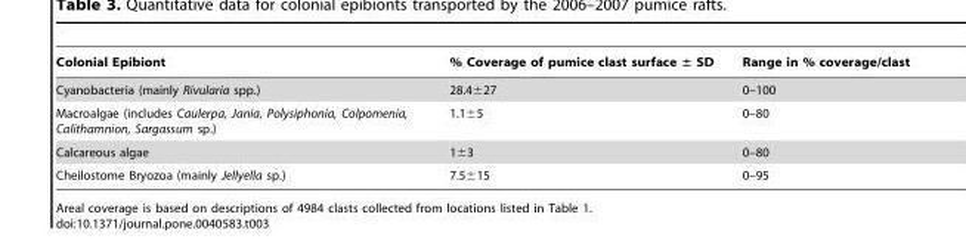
<table><thead><tr><td>Colonial Epibiont</td><td>% Coverage of pumice clast surface ± SD</td><td>Range in % coverage/clast</td></tr></thead><tbody><tr><td>Cyanobacteria (mainly Rivularia spp.)</td><td>28.4±27</td><td>0–100</td></tr><tr><td>Macroalgae (includes Caulerpa, Jania, Polysiphonia, Colpomenia, Calithamnion, Sargassum sp.)</td><td>1.1±5</td><td>0–80</td></tr><tr><td>Calcareous algae</td><td>1±3</td><td>0–80</td></tr><tr><td>Cheilostome Bryozoa (mainly Jellyella sp.)</td><td>7.5±15</td><td>0–95</td></tr></tbody></table>